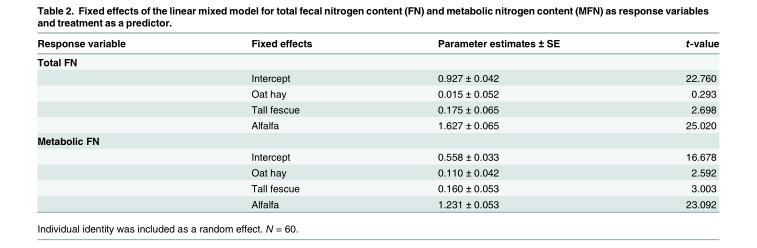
<table><thead><tr><td>Response variable</td><td>Fixed effects</td><td>Parameter estimates ± SE</td><td>t-value</td></tr></thead><tbody><tr><td colspan="4">Total FN</td></tr><tr><td></td><td>Intercept</td><td>0.927 ± 0.042</td><td>22.760</td></tr><tr><td></td><td>Oat hay</td><td>0.015 ± 0.052</td><td>0.293</td></tr><tr><td></td><td>Tall fescue</td><td>0.175 ± 0.065</td><td>2.698</td></tr><tr><td></td><td>Alfalfa</td><td>1.627 ± 0.065</td><td>25.020</td></tr><tr><td colspan="4">Metabolic FN</td></tr><tr><td></td><td>Intercept</td><td>0.558 ± 0.033</td><td>16.678</td></tr><tr><td></td><td>Oat hay</td><td>0.110 ± 0.042</td><td>2.592</td></tr><tr><td></td><td>Tall fescue</td><td>0.160 ± 0.053</td><td>3.003</td></tr><tr><td></td><td>Alfalfa</td><td>1.231 ± 0.053</td><td>23.092</td></tr></tbody></table>